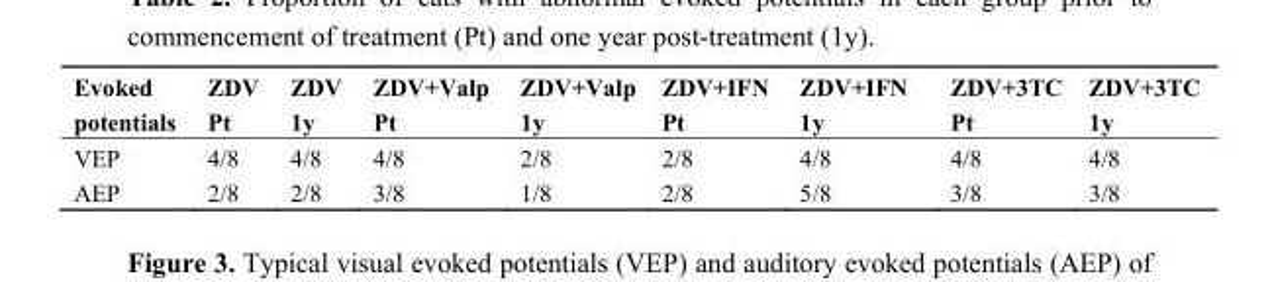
<table><thead><tr><td>Evoked potentials</td><td>ZDV Pt</td><td>ZDV 1y</td><td>ZDV+Valp Pt</td><td>ZDV+Valp 1y</td><td>ZDV+IFN Pt</td><td>ZDV+IFN 1y</td><td>ZDV+3TC Pt</td><td>ZDV+3TC 1y</td></tr></thead><tbody><tr><td>VEP</td><td>4/8</td><td>4/8</td><td>4/8</td><td>2/8</td><td>2/8</td><td>4/8</td><td>4/8</td><td>4/8</td></tr><tr><td>AEP</td><td>2/8</td><td>2/8</td><td>3/8</td><td>1/8</td><td>2/8</td><td>5/8</td><td>3/8</td><td>3/8</td></tr></tbody></table>